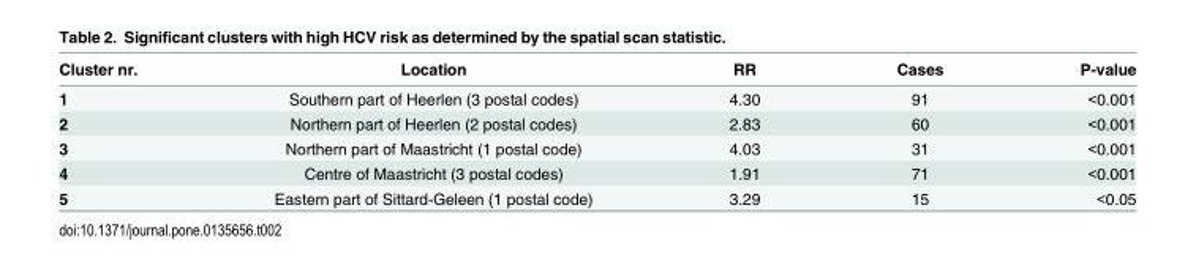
<table><thead><tr><td>Cluster nr.</td><td>Location</td><td>RR</td><td>Cases</td><td>P-value</td></tr></thead><tbody><tr><td>1</td><td>Southern part of Heerlen (3 postal codes)</td><td>4.30</td><td>91</td><td>&lt;0.001</td></tr><tr><td>2</td><td>Northern part of Heerlen (2 postal codes)</td><td>2.83</td><td>60</td><td>&lt;0.001</td></tr><tr><td>3</td><td>Northern part of Maastricht (1 postal code)</td><td>4.03</td><td>31</td><td>&lt;0.001</td></tr><tr><td>4</td><td>Centre of Maastricht (3 postal codes)</td><td>1.91</td><td>71</td><td>&lt;0.001</td></tr><tr><td>5</td><td>Eastern part of Sittard-Geleen (1 postal code)</td><td>3.29</td><td>15</td><td>&lt;0.05</td></tr></tbody></table>